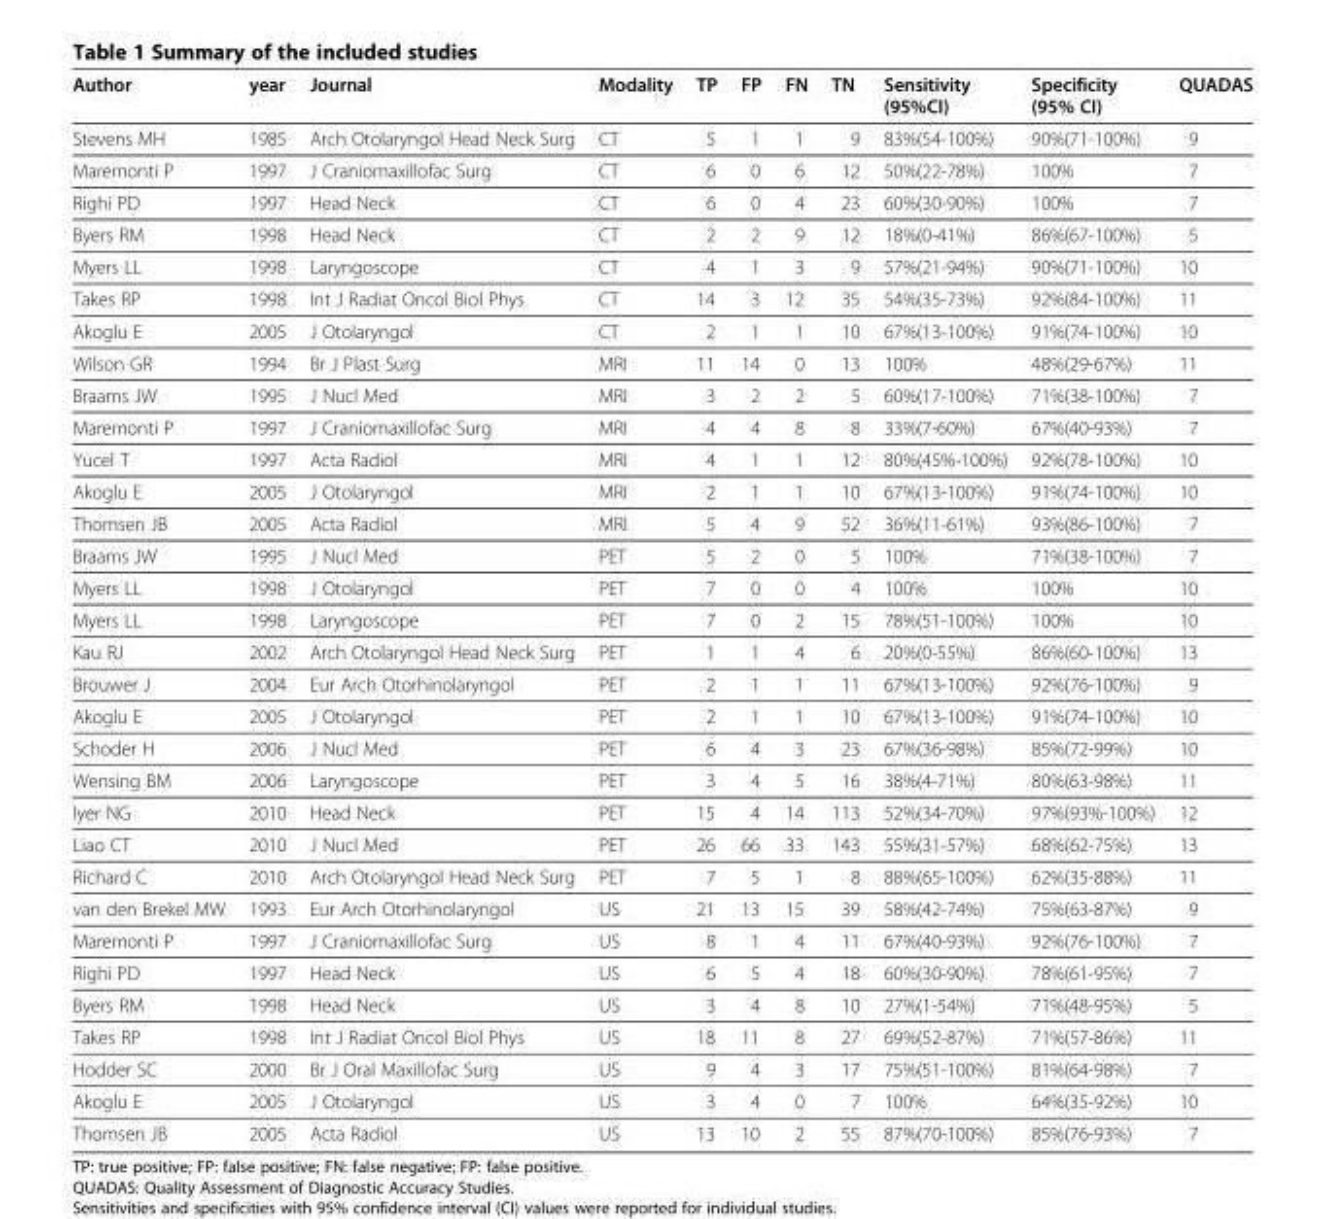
<table><thead><tr><td>Author</td><td>year</td><td>Journal</td><td>Modality</td><td>TP</td><td>FP</td><td>FN</td><td>TN</td><td>Sensitivity (95%CI)</td><td>Specificity (95% CI)</td><td>QUADAS</td></tr></thead><tbody><tr><td>Stevens MH</td><td>1985</td><td>Arch Otolaryngol Head Neck Surg</td><td>CT</td><td>5</td><td>1</td><td>1</td><td>9</td><td>83%(54-100%)</td><td>90%(71-100%)</td><td>9</td></tr><tr><td>Maremonti P</td><td>1997</td><td>J Craniomaxillofac Surg</td><td>CT</td><td>6</td><td>0</td><td>6</td><td>12</td><td>50%(22-78%)</td><td>100%</td><td>7</td></tr><tr><td>Righi PD</td><td>1997</td><td>Head Neck</td><td>CT</td><td>6</td><td>0</td><td>4</td><td>23</td><td>60%(30-90%)</td><td>100%</td><td>7</td></tr><tr><td>Byers RM</td><td>1998</td><td>Head Neck</td><td>CT</td><td>2</td><td>2</td><td>9</td><td>12</td><td>18%(0-41%)</td><td>86%(67-100%)</td><td>5</td></tr><tr><td>Myers LL</td><td>1998</td><td>Laryngoscope</td><td>CT</td><td>4</td><td>1</td><td>3</td><td>9</td><td>57%(21-94%)</td><td>90%(71-100%)</td><td>10</td></tr><tr><td>Takes RP</td><td>1998</td><td>Int J Radiat Oncol Biol Phys</td><td>CT</td><td>14</td><td>3</td><td>12</td><td>35</td><td>54%(35-73%)</td><td>92%(84-100%)</td><td>11</td></tr><tr><td>Akoglu E</td><td>2005</td><td>J Otolaryngol</td><td>CT</td><td>2</td><td>1</td><td>1</td><td>10</td><td>67%(13-100%)</td><td>91%(74-100%)</td><td>10</td></tr><tr><td>Wilson GR</td><td>1994</td><td>Br J Plast Surg</td><td>MRI</td><td>11</td><td>14</td><td>0</td><td>13</td><td>100%</td><td>48%(29-67%)</td><td>11</td></tr><tr><td>Braams JW</td><td>1995</td><td>J Nucl Med</td><td>MRI</td><td>3</td><td>2</td><td>2</td><td>5</td><td>60%(17-100%)</td><td>71%(38-100%)</td><td>7</td></tr><tr><td>Maremonti P</td><td>1997</td><td>J Craniomaxillofac Surg</td><td>MRI</td><td>4</td><td>4</td><td>8</td><td>8</td><td>33%(7-60%)</td><td>67%(40-93%)</td><td>7</td></tr><tr><td>Yucel T</td><td>1997</td><td>Acta Radiol</td><td>MRI</td><td>4</td><td>1</td><td>1</td><td>12</td><td>80%(45%-100%)</td><td>92%(78-100%)</td><td>10</td></tr><tr><td>Akoglu E</td><td>2005</td><td>J Otolaryngol</td><td>MRI</td><td>2</td><td>1</td><td>1</td><td>10</td><td>67%(13-100%)</td><td>91%(74-100%)</td><td>10</td></tr><tr><td>Thomsen JB</td><td>2005</td><td>Acta Radiol</td><td>MRI</td><td>5</td><td>4</td><td>9</td><td>52</td><td>36%(11-61%)</td><td>93%(86-100%)</td><td>7</td></tr><tr><td>Braams JW</td><td>1995</td><td>J Nucl Med</td><td>PET</td><td>5</td><td>2</td><td>0</td><td>5</td><td>100%</td><td>71%(38-100%)</td><td>7</td></tr><tr><td>Myers LL</td><td>1998</td><td>J Otolaryngol</td><td>PET</td><td>7</td><td>0</td><td>0</td><td>4</td><td>100%</td><td>100%</td><td>10</td></tr><tr><td>Myers LL</td><td>1998</td><td>Laryngoscope</td><td>PET</td><td>7</td><td>0</td><td>2</td><td>15</td><td>78%(51-100%)</td><td>100%</td><td>10</td></tr><tr><td>Kau RJ</td><td>2002</td><td>Arch Otolaryngol Head Neck Surg</td><td>PET</td><td>1</td><td>1</td><td>4</td><td>6</td><td>20%(0-55%)</td><td>86%(60-100%)</td><td>13</td></tr><tr><td>Brouwer J</td><td>2004</td><td>Eur Arch Otorhinolaryngol</td><td>PET</td><td>2</td><td>1</td><td>1</td><td>11</td><td>67%(13-100%)</td><td>92%(76-100%)</td><td>9</td></tr><tr><td>Akoglu E</td><td>2005</td><td>J Otolaryngol</td><td>PET</td><td>2</td><td>1</td><td>1</td><td>10</td><td>67%(13-100%)</td><td>91%(74-100%)</td><td>10</td></tr><tr><td>Schoder H</td><td>2006</td><td>J Nucl Med</td><td>PET</td><td>6</td><td>4</td><td>3</td><td>23</td><td>67%(36-98%)</td><td>85%(72-99%)</td><td>10</td></tr><tr><td>Wensing BM</td><td>2006</td><td>Laryngoscope</td><td>PET</td><td>3</td><td>4</td><td>5</td><td>16</td><td>38%(4-71%)</td><td>80%(63-98%)</td><td>11</td></tr><tr><td>Iyer NG</td><td>2010</td><td>Head Neck</td><td>PET</td><td>15</td><td>4</td><td>14</td><td>113</td><td>52%(34-70%)</td><td>97%(93%-100%)</td><td>12</td></tr><tr><td>Liao CT</td><td>2010</td><td>J Nucl Med</td><td>PET</td><td>26</td><td>66</td><td>33</td><td>143</td><td>55%(31-57%)</td><td>68%(62-75%)</td><td>13</td></tr><tr><td>Richard C</td><td>2010</td><td>Arch Otolaryngol Head Neck Surg</td><td>PET</td><td>7</td><td>5</td><td>1</td><td>8</td><td>88%(65-100%)</td><td>62%(35-88%)</td><td>11</td></tr><tr><td>van den Brekel MW</td><td>1993</td><td>Eur Arch Otorhinolaryngol</td><td>US</td><td>21</td><td>13</td><td>15</td><td>39</td><td>58%(42-74%)</td><td>75%(63-87%)</td><td>9</td></tr><tr><td>Maremonti P</td><td>1997</td><td>J Craniomaxillofac Surg</td><td>US</td><td>8</td><td>1</td><td>4</td><td>11</td><td>67%(40-93%)</td><td>92%(76-100%)</td><td>7</td></tr><tr><td>Righi PD</td><td>1997</td><td>Head Neck</td><td>US</td><td>6</td><td>5</td><td>4</td><td>18</td><td>60%(30-90%)</td><td>78%(61-95%)</td><td>7</td></tr><tr><td>Byers RM</td><td>1998</td><td>Head Neck</td><td>US</td><td>3</td><td>4</td><td>8</td><td>10</td><td>27%(1-54%)</td><td>71%(48-95%)</td><td>5</td></tr><tr><td>Takes RP</td><td>1998</td><td>Int J Radiat Oncol Biol Phys</td><td>US</td><td>18</td><td>11</td><td>8</td><td>27</td><td>69%(52-87%)</td><td>71%(57-86%)</td><td>11</td></tr><tr><td>Hodder SC</td><td>2000</td><td>Br J Oral Maxillofac Surg</td><td>US</td><td>9</td><td>4</td><td>3</td><td>17</td><td>75%(51-100%)</td><td>81%(64-98%)</td><td>7</td></tr><tr><td>Akoglu E</td><td>2005</td><td>J Otolaryngol</td><td>US</td><td>3</td><td>4</td><td>0</td><td>7</td><td>100%</td><td>64%(35-92%)</td><td>10</td></tr><tr><td>Thomsen JB</td><td>2005</td><td>Acta Radiol</td><td>US</td><td>13</td><td>10</td><td>2</td><td>55</td><td>87%(70-100%)</td><td>85%(76-93%)</td><td>7</td></tr></tbody></table>